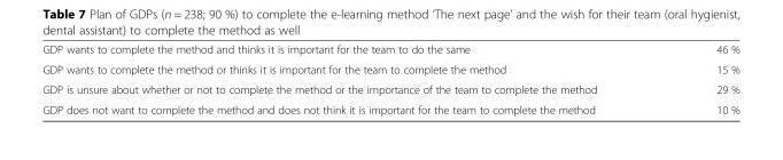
<table><tbody><tr><td>GDP wants to complete the method and thinks it is important for the team to do the same</td><td>46 %</td></tr><tr><td>GDP wants to complete the method or thinks it is important for the team to complete the method</td><td>15 %</td></tr><tr><td>GDP is unsure about whether or not to complete the method or the importance of the team to complete the method</td><td>29 %</td></tr><tr><td>GDP does not want to complete the method and does not think it is important for the team to complete the method</td><td>10 %</td></tr></tbody></table>